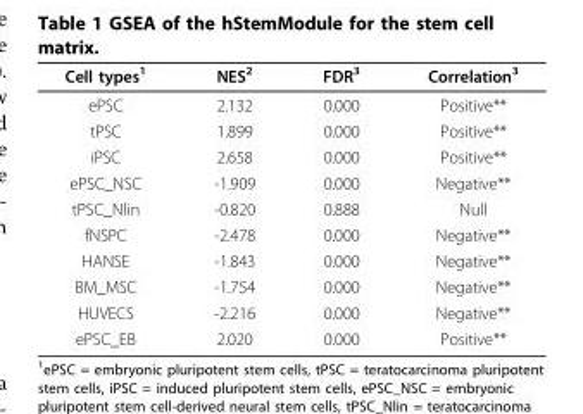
<table><thead><tr><td>Cell types<sup>1</sup></td><td>NES<sup>2</sup></td><td>FDR<sup>3</sup></td><td>Correlation<sup>3</sup></td></tr></thead><tbody><tr><td>ePSC</td><td>2.132</td><td>0.000</td><td>Positive**</td></tr><tr><td>tPSC</td><td>1.899</td><td>0.000</td><td>Positive**</td></tr><tr><td>iPSC</td><td>2.658</td><td>0.000</td><td>Positive**</td></tr><tr><td>ePSC_NSC</td><td>-1.909</td><td>0.000</td><td>Negative**</td></tr><tr><td>tPSC_Nlin</td><td>-0.820</td><td>0.888</td><td>Null</td></tr><tr><td>fNSPC</td><td>-2.478</td><td>0.000</td><td>Negative**</td></tr><tr><td>HANSE</td><td>-1.843</td><td>0.000</td><td>Negative**</td></tr><tr><td>BM_MSC</td><td>-1.754</td><td>0.000</td><td>Negative**</td></tr><tr><td>HUVECS</td><td>-2.216</td><td>0.000</td><td>Negative**</td></tr><tr><td>ePSC_EB</td><td>2.020</td><td>0.000</td><td>Positive**</td></tr></tbody></table>